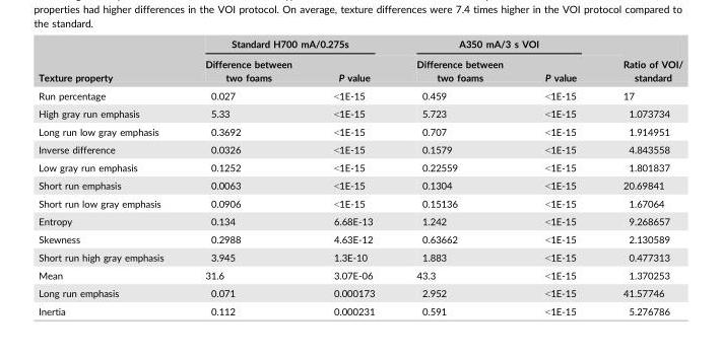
<table><thead><tr><td rowspan="2">Texture property</td><td colspan="2">Standard H700 mA/0.275s</td><td colspan="2">A350 mA/3 s VOI</td><td rowspan="2">Ratio of VOI/ standard</td></tr><tr><td>Difference between two foams</td><td>P value</td><td>Difference between two foams</td><td>P value</td></tr></thead><tbody><tr><td>Run percentage</td><td>0.027</td><td>&lt;1E-15</td><td>0.459</td><td>&lt;1E-15</td><td>17</td></tr><tr><td>High gray run emphasis</td><td>5.33</td><td>&lt;1E-15</td><td>5.723</td><td>&lt;1E-15</td><td>1.073734</td></tr><tr><td>Long run low gray emphasis</td><td>0.3692</td><td>&lt;1E-15</td><td>0.707</td><td>&lt;1E-15</td><td>1.914951</td></tr><tr><td>Inverse difference</td><td>0.0326</td><td>&lt;1E-15</td><td>0.1579</td><td>&lt;1E-15</td><td>4.843558</td></tr><tr><td>Low gray run emphasis</td><td>0.1252</td><td>&lt;1E-15</td><td>0.22559</td><td>&lt;1E-15</td><td>1.801837</td></tr><tr><td>Short run emphasis</td><td>0.0063</td><td>&lt;1E-15</td><td>0.1304</td><td>&lt;1E-15</td><td>20.69841</td></tr><tr><td>Short run low gray emphasis</td><td>0.0906</td><td>&lt;1E-15</td><td>0.15136</td><td>&lt;1E-15</td><td>1.67064</td></tr><tr><td>Entropy</td><td>0.134</td><td>6.68E-13</td><td>1.242</td><td>&lt;1E-15</td><td>9.268657</td></tr><tr><td>Skewness</td><td>0.2988</td><td>4.63E-12</td><td>0.63662</td><td>&lt;1E-15</td><td>2.130589</td></tr><tr><td>Short run high gray emphasis</td><td>3.945</td><td>1.3E-10</td><td>1.883</td><td>&lt;1E-15</td><td>0.477313</td></tr><tr><td>Mean</td><td>31.6</td><td>3.07E-06</td><td>43.3</td><td>&lt;1E-15</td><td>1.370253</td></tr><tr><td>Long run emphasis</td><td>0.071</td><td>0.000173</td><td>2.952</td><td>&lt;1E-15</td><td>41.57746</td></tr><tr><td>Inertia</td><td>0.112</td><td>0.000231</td><td>0.591</td><td>&lt;1E-15</td><td>5.276786</td></tr></tbody></table>